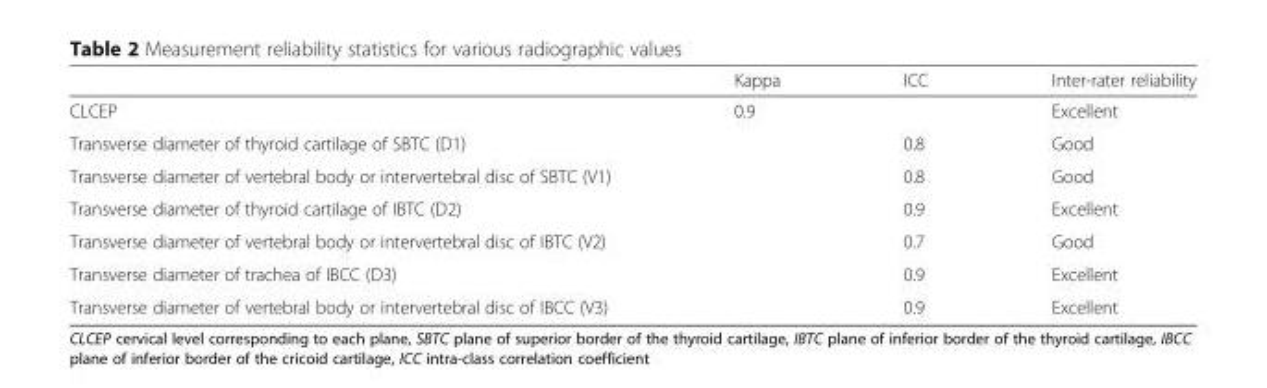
<table><thead><tr><td></td><td>Kappa</td><td>ICC</td><td>Inter-rater reliability</td></tr></thead><tbody><tr><td>CLCEP</td><td>0.9</td><td></td><td>Excellent</td></tr><tr><td>Transverse diameter of thyroid cartilage of SBTC (D1)</td><td></td><td>0.8</td><td>Good</td></tr><tr><td>Transverse diameter of vertebral body or intervertebral disc of SBTC (V1)</td><td></td><td>0.8</td><td>Good</td></tr><tr><td>Transverse diameter of thyroid cartilage of IBTC (D2)</td><td></td><td>0.9</td><td>Excellent</td></tr><tr><td>Transverse diameter of vertebral body or intervertebral disc of IBTC (V2)</td><td></td><td>0.7</td><td>Good</td></tr><tr><td>Transverse diameter of trachea of IBCC (D3)</td><td></td><td>0.9</td><td>Excellent</td></tr><tr><td>Transverse diameter of vertebral body or intervertebral disc of IBCC (V3)</td><td></td><td>0.9</td><td>Excellent</td></tr></tbody></table>